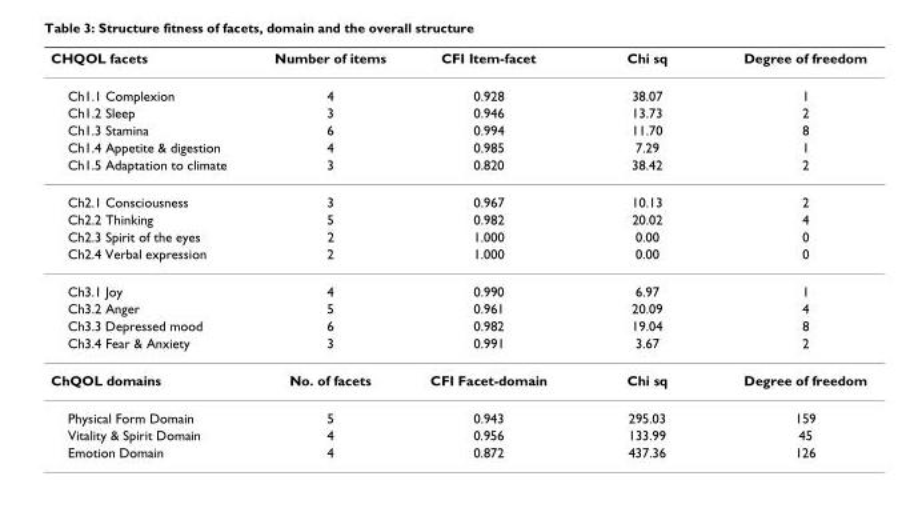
<table><thead><tr><td>CHQOL facets</td><td>Number of items</td><td>CFI Item-facet</td><td>Chi sq</td><td>Degree of freedom</td></tr></thead><tbody><tr><td>Ch1.1 Complexion</td><td>4</td><td>0.928</td><td>38.07</td><td>1</td></tr><tr><td>Ch1.2 Sleep</td><td>3</td><td>0.946</td><td>13.73</td><td>2</td></tr><tr><td>Ch1.3 Stamina</td><td>6</td><td>0.994</td><td>11.70</td><td>8</td></tr><tr><td>Ch1.4 Appetite &amp; digestion</td><td>4</td><td>0.985</td><td>7.29</td><td>1</td></tr><tr><td>Ch1.5 Adaptation to climate</td><td>3</td><td>0.820</td><td>38.42</td><td>2</td></tr><tr><td>Ch2.1 Consciousness</td><td>3</td><td>0.967</td><td>10.13</td><td>2</td></tr><tr><td>Ch2.2 Thinking</td><td>5</td><td>0.982</td><td>20.02</td><td>4</td></tr><tr><td>Ch2.3 Spirit of the eyes</td><td>2</td><td>1.000</td><td>0.00</td><td>0</td></tr><tr><td>Ch2.4 Verbal expression</td><td>2</td><td>1.000</td><td>0.00</td><td>0</td></tr><tr><td>Ch3.1 Joy</td><td>4</td><td>0.990</td><td>6.97</td><td>1</td></tr><tr><td>Ch3.2 Anger</td><td>5</td><td>0.961</td><td>20.09</td><td>4</td></tr><tr><td>Ch3.3 Depressed mood</td><td>6</td><td>0.982</td><td>19.04</td><td>8</td></tr><tr><td>Ch3.4 Fear &amp; Anxiety</td><td>3</td><td>0.991</td><td>3.67</td><td>2</td></tr><tr><td>ChQOL domains</td><td>No. of facets</td><td>CFI Facet-domain</td><td>Chi sq</td><td>Degree of freedom</td></tr><tr><td>Physical Form Domain</td><td>5</td><td>0.943</td><td>295.03</td><td>159</td></tr><tr><td>Vitality &amp; Spirit Domain</td><td>4</td><td>0.956</td><td>133.99</td><td>45</td></tr><tr><td>Emotion Domain</td><td>4</td><td>0.872</td><td>437.36</td><td>126</td></tr></tbody></table>